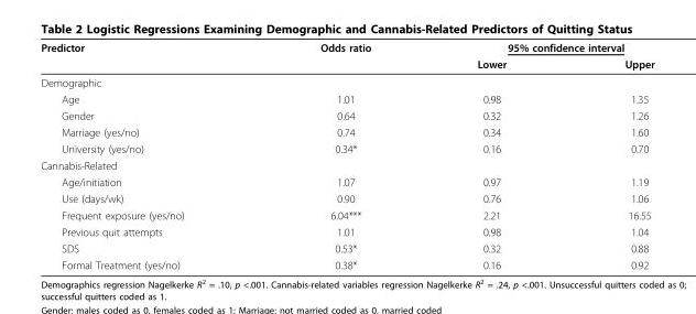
<table><thead><tr><td rowspan="2">Predictor</td><td rowspan="2">Odds ratio</td><td colspan="2">95% confidence interval</td></tr><tr><td>Lower</td><td>Upper</td></tr></thead><tbody><tr><td colspan="4">Demographic</td></tr><tr><td>Age</td><td>1.01</td><td>0.98</td><td>1.35</td></tr><tr><td>Gender</td><td>0.64</td><td>0.32</td><td>1.26</td></tr><tr><td>Marriage (yes/no)</td><td>0.74</td><td>0.34</td><td>1.60</td></tr><tr><td>University (yes/no)</td><td>0.34*</td><td>0.16</td><td>0.70</td></tr><tr><td colspan="4">Cannabis-Related</td></tr><tr><td>Age/initiation</td><td>1.07</td><td>0.97</td><td>1.19</td></tr><tr><td>Use (days/wk)</td><td>0.90</td><td>0.76</td><td>1.06</td></tr><tr><td>Frequent exposure (yes/no)</td><td>6.04***</td><td>2.21</td><td>16.55</td></tr><tr><td>Previous quit attempts</td><td>1.01</td><td>0.98</td><td>1.04</td></tr><tr><td>SDS</td><td>0.53*</td><td>0.32</td><td>0.88</td></tr><tr><td>Formal Treatment (yes/no)</td><td>0.38*</td><td>0.16</td><td>0.92</td></tr></tbody></table>